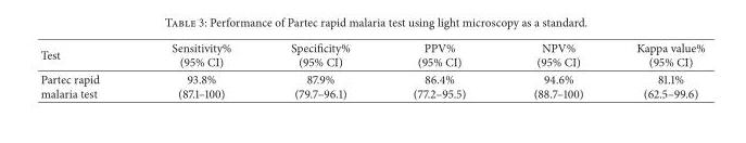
<table><thead><tr><td>Test</td><td>Sensitivity% (95% CI)</td><td>Specificity% (95% CI)</td><td>PPV% (95% CI)</td><td>NPV% (95% CI)</td><td>Kappa value% (95% CI)</td></tr></thead><tbody><tr><td>Partec rapid malaria test</td><td>93.8% (87.1–100)</td><td>87.9% (79.7–96.1)</td><td>86.4% (77.2–95.5)</td><td>94.6% (88.7–100)</td><td>81.1% (62.5–99.6)</td></tr></tbody></table>